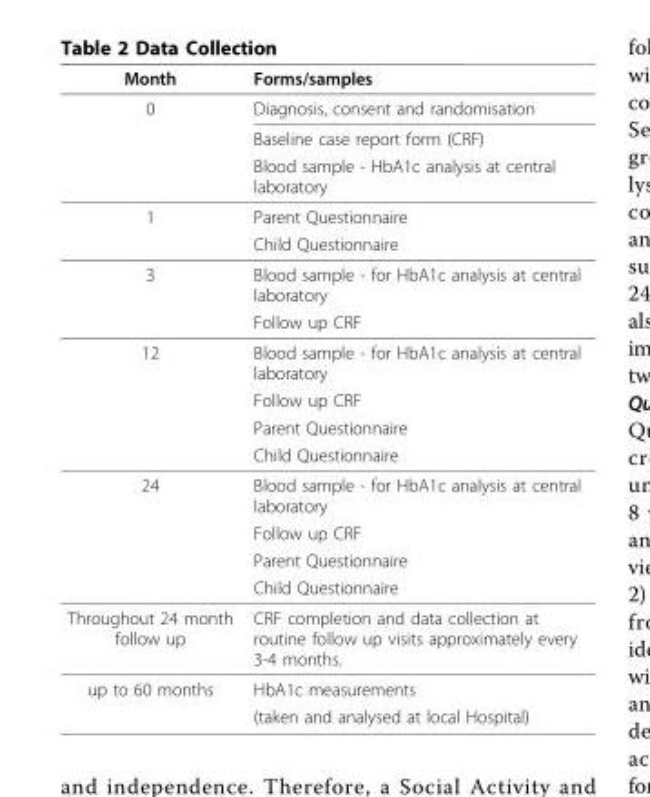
<table><thead><tr><td>Month</td><td>Forms/samples</td></tr></thead><tbody><tr><td rowspan="3">0</td><td>Diagnosis, consent and randomisation</td></tr><tr><td>Baseline case report form (CRF)</td></tr><tr><td>Blood sample - HbA1c analysis at central laboratory</td></tr><tr><td rowspan="2">1</td><td>Parent Questionnaire</td></tr><tr><td>Child Questionnaire</td></tr><tr><td rowspan="2">3</td><td>Blood sample - for HbA1c analysis at central laboratory</td></tr><tr><td>Follow up CRF</td></tr><tr><td rowspan="4">12</td><td>Blood sample - for HbA1c analysis at central laboratory</td></tr><tr><td>Follow up CRF</td></tr><tr><td>Parent Questionnaire</td></tr><tr><td>Child Questionnaire</td></tr><tr><td rowspan="4">24</td><td>Blood sample - for HbA1c analysis at central laboratory</td></tr><tr><td>Follow up CRF</td></tr><tr><td>Parent Questionnaire</td></tr><tr><td>Child Questionnaire</td></tr><tr><td>Throughout 24 month follow up</td><td>CRF completion and data collection at routine follow up visits approximately every 3-4 months.</td></tr><tr><td rowspan="2">up to 60 months</td><td>HbA1c measurements</td></tr><tr><td>(taken and analysed at local Hospital)</td></tr></tbody></table>